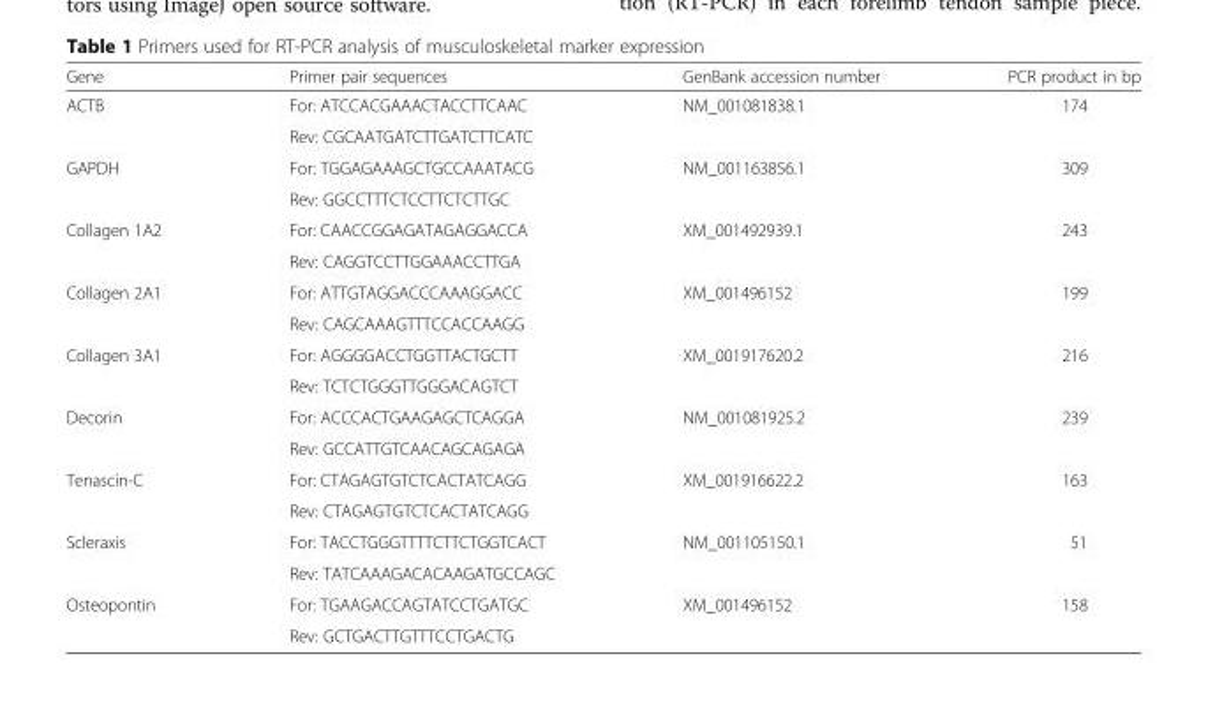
<table><thead><tr><td>Gene</td><td>Primer pair sequences</td><td>GenBank accession number</td><td>PCR product in bp</td></tr></thead><tbody><tr><td rowspan="2">ACTB</td><td>For: ATCCACGAAACTACCTTCAAC</td><td rowspan="2">NM_001081838.1</td><td rowspan="2">174</td></tr><tr><td>Rev: CGCAATGATCTTGATCTTCATC</td></tr><tr><td rowspan="2">GAPDH</td><td>For: TGGAGAAAGCTGCCAAATACG</td><td rowspan="2">NM_001163856.1</td><td rowspan="2">309</td></tr><tr><td>Rev: GGCCTTTCTCCTTCTCTTGC</td></tr><tr><td rowspan="2">Collagen 1A2</td><td>For: CAACCGGAGATAGAGGACCA</td><td rowspan="2">XM_001492939.1</td><td rowspan="2">243</td></tr><tr><td>Rev: CAGGTCCTTGGAAACCTTGA</td></tr><tr><td rowspan="2">Collagen 2A1</td><td>For: ATTGTAGGACCCAAAGGACC</td><td rowspan="2">XM_001496152</td><td rowspan="2">199</td></tr><tr><td>Rev: CAGCAAAGTTTCCACCAAGG</td></tr><tr><td rowspan="2">Collagen 3A1</td><td>For: AGGGGACCTGGTTACTGCTT</td><td rowspan="2">XM_001917620.2</td><td rowspan="2">216</td></tr><tr><td>Rev: TCTCTGGGTTGGGACAGTCT</td></tr><tr><td rowspan="2">Decorin</td><td>For: ACCCACTGAAGAGCTCAGGA</td><td rowspan="2">NM_001081925.2</td><td rowspan="2">239</td></tr><tr><td>Rev: GCCATTGTCAACAGCAGAGA</td></tr><tr><td rowspan="2">Tenascin-C</td><td>For: CTAGAGTGTCTCACTATCAGG</td><td rowspan="2">XM_001916622.2</td><td rowspan="2">163</td></tr><tr><td>Rev: CTAGAGTGTCTCACTATCAGG</td></tr><tr><td rowspan="2">Scleraxis</td><td>For: TACCTGGGTTTTCTTCTGGTCACT</td><td rowspan="2">NM_001105150.1</td><td rowspan="2">51</td></tr><tr><td>Rev: TATCAAAGACACAAGATGCCAGC</td></tr><tr><td rowspan="2">Osteopontin</td><td>For: TGAAGACCAGTATCCTGATGC</td><td rowspan="2">XM_001496152</td><td rowspan="2">158</td></tr><tr><td>Rev: GCTGACTTGTTTCCTGACTG</td></tr></tbody></table>